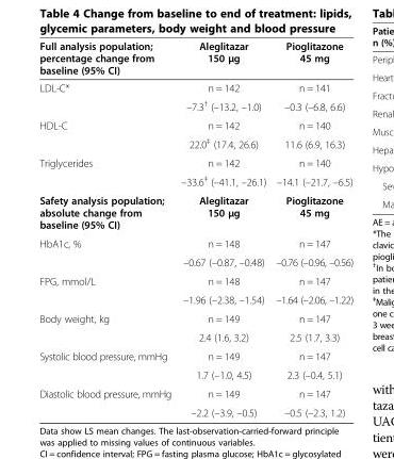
<table><thead><tr><td>Full analysis population; percentage change from baseline (95% CI)</td><td>Aleglitazar 150 μg</td><td>Pioglitazone 45 mg</td></tr></thead><tbody><tr><td rowspan="2">LDL-C*</td><td>n = 142</td><td>n = 141</td></tr><tr><td>–7.3<sup>†</sup> (–13.2, –1.0)</td><td>–0.3 (–6.8, 6.6)</td></tr><tr><td rowspan="2">HDL-C</td><td>n = 142</td><td>n = 140</td></tr><tr><td>22.0<sup>‡</sup> (17.4, 26.6)</td><td>11.6 (6.9, 16.3)</td></tr><tr><td rowspan="2">Triglycerides</td><td>n = 142</td><td>n = 140</td></tr><tr><td>–33.6<sup>‡</sup> (–41.1, –26.1)</td><td>–14.1 (–21.7, –6.5)</td></tr><tr><td>Safety analysis population; absolute change from baseline (95% CI)</td><td>Aleglitazar 150 μg</td><td>Pioglitazone 45 mg</td></tr><tr><td rowspan="2">HbA1c, %</td><td>n = 148</td><td>n = 147</td></tr><tr><td>–0.67 (–0.87, –0.48)</td><td>–0.76 (–0.96, –0.56)</td></tr><tr><td rowspan="2">FPG, mmol/L</td><td>n = 148</td><td>n = 147</td></tr><tr><td>–1.96 (–2.38, –1.54)</td><td>–1.64 (–2.06, –1.22)</td></tr><tr><td rowspan="2">Body weight, kg</td><td>n = 149</td><td>n = 147</td></tr><tr><td>2.4 (1.6, 3.2)</td><td>2.5 (1.7, 3.3)</td></tr><tr><td rowspan="2">Systolic blood pressure, mmHg</td><td>n = 149</td><td>n = 147</td></tr><tr><td>1.7 (–1.0, 4.5)</td><td>2.3 (–0.4, 5.1)</td></tr><tr><td rowspan="2">Diastolic blood pressure, mmHg</td><td>n = 149</td><td>n = 147</td></tr><tr><td>–2.2 (–3.9, –0.5)</td><td>–0.5 (–2.3, 1.2)</td></tr></tbody></table>